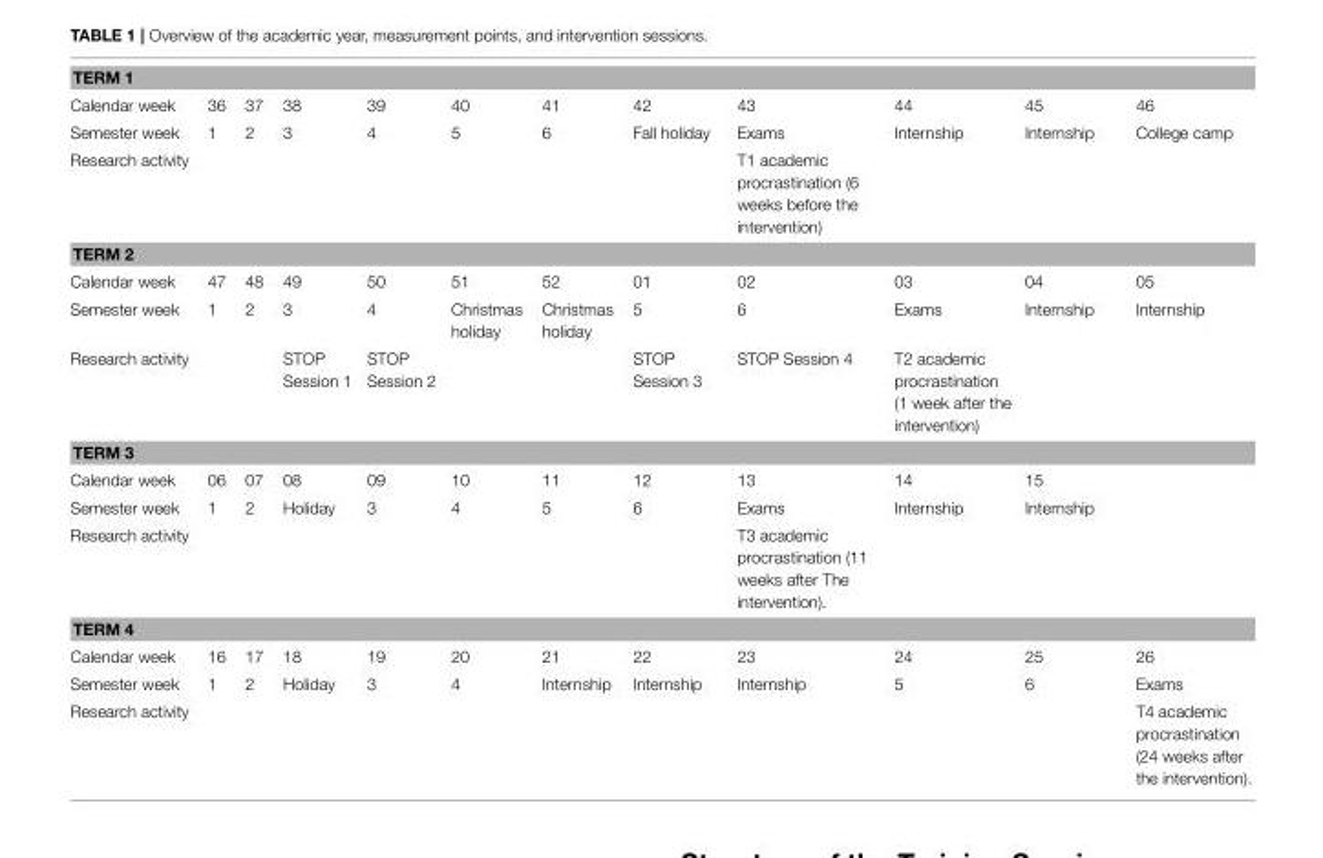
<table><tbody><tr><td colspan="12">TERM 1</td></tr><tr><td>Calendar week</td><td>36</td><td>37</td><td>38</td><td>39</td><td>40</td><td>41</td><td>42</td><td>43</td><td>44</td><td>45</td><td>46</td></tr><tr><td>Semester week</td><td>1</td><td>2</td><td>3</td><td>4</td><td>5</td><td>6</td><td>Fall holiday</td><td>Exams</td><td>Internship</td><td>Internship</td><td>College camp</td></tr><tr><td>Research activity</td><td></td><td></td><td></td><td></td><td></td><td></td><td></td><td>T1 academic procrastination (6 weeks before the intervention)</td><td></td><td></td><td></td></tr><tr><td colspan="12">TERM 2</td></tr><tr><td>Calendar week</td><td>47</td><td>48</td><td>49</td><td>50</td><td>51</td><td>52</td><td>01</td><td>02</td><td>03</td><td>04</td><td>05</td></tr><tr><td>Semester week</td><td>1</td><td>2</td><td>3</td><td>4</td><td>Christmas holiday</td><td>Christmas holiday</td><td>5</td><td>6</td><td>Exams</td><td>Internship</td><td>Internship</td></tr><tr><td>Research activity</td><td></td><td></td><td>STOP Session 1</td><td>STOP Session 2</td><td></td><td></td><td>STOP Session 3</td><td>STOP Session 4</td><td>T2 academic procrastination (1 week after the intervention)</td><td></td><td></td></tr><tr><td colspan="12">TERM 3</td></tr><tr><td>Calendar week</td><td>06</td><td>07</td><td>08</td><td>09</td><td>10</td><td>11</td><td>12</td><td>13</td><td>14</td><td>15</td><td></td></tr><tr><td>Semester week</td><td>1</td><td>2</td><td>Holiday</td><td>3</td><td>4</td><td>5</td><td>6</td><td>Exams</td><td>Internship</td><td>Internship</td><td></td></tr><tr><td>Research activity</td><td></td><td></td><td></td><td></td><td></td><td></td><td></td><td>T3 academic procrastination (11 weeks after The intervention).</td><td></td><td></td><td></td></tr><tr><td colspan="12">TERM 4</td></tr><tr><td>Calendar week</td><td>16</td><td>17</td><td>18</td><td>19</td><td>20</td><td>21</td><td>22</td><td>23</td><td>24</td><td>25</td><td>26</td></tr><tr><td>Semester week</td><td>1</td><td>2</td><td>Holiday</td><td>3</td><td>4</td><td>Internship</td><td>Internship</td><td>Internship</td><td>5</td><td>6</td><td>Exams</td></tr><tr><td>Research activity</td><td></td><td></td><td></td><td></td><td></td><td></td><td></td><td></td><td></td><td></td><td>T4 academic procrastination (24 weeks after the intervention).</td></tr></tbody></table>